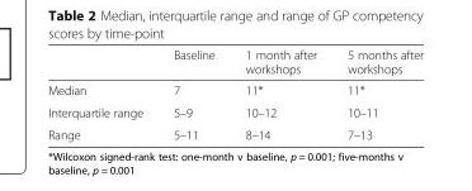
<table><thead><tr><td></td><td>Baseline</td><td>1 month after workshops</td><td>5 months after workshops</td></tr></thead><tbody><tr><td>Median</td><td>7</td><td>11*</td><td>11*</td></tr><tr><td>Interquartile range</td><td>5–9</td><td>10–12</td><td>10–11</td></tr><tr><td>Range</td><td>5–11</td><td>8–14</td><td>7–13</td></tr></tbody></table>